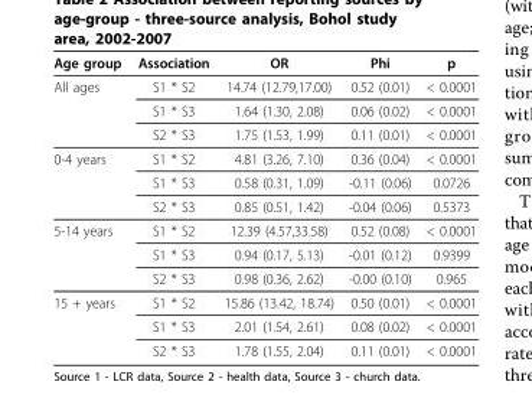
<table><thead><tr><td>Age group</td><td>Association</td><td>OR</td><td>Phi</td><td>p</td></tr></thead><tbody><tr><td rowspan="3">All ages</td><td>S1 * S2</td><td>14.74 (12.79,17.00)</td><td>0.52 (0.01)</td><td>&lt; 0.0001</td></tr><tr><td>S1 * S3</td><td>1.64 (1.30, 2.08)</td><td>0.06 (0.02)</td><td>&lt; 0.0001</td></tr><tr><td>S2 * S3</td><td>1.75 (1.53, 1.99)</td><td>0.11 (0.01)</td><td>&lt; 0.0001</td></tr><tr><td rowspan="3">0-4 years</td><td>S1 * S2</td><td>4.81 (3.26, 7.10)</td><td>0.36 (0.04)</td><td>&lt; 0.0001</td></tr><tr><td>S1 * S3</td><td>0.58 (0.31, 1.09)</td><td>-0.11 (0.06)</td><td>0.0726</td></tr><tr><td>S2 * S3</td><td>0.85 (0.51, 1.42)</td><td>-0.04 (0.06)</td><td>0.5373</td></tr><tr><td rowspan="3">5-14 years</td><td>S1 * S2</td><td>12.39 (4.57,33.58)</td><td>0.52 (0.08)</td><td>&lt; 0.0001</td></tr><tr><td>S1 * S3</td><td>0.94 (0.17, 5.13)</td><td>-0.01 (0.12)</td><td>0.9399</td></tr><tr><td>S2 * S3</td><td>0.98 (0.36, 2.62)</td><td>-0.00 (0.10)</td><td>0.965</td></tr><tr><td rowspan="3">15 + years</td><td>S1 * S2</td><td>15.86 (13.42, 18.74)</td><td>0.50 (0.01)</td><td>&lt; 0.0001</td></tr><tr><td>S1 * S3</td><td>2.01 (1.54, 2.61)</td><td>0.08 (0.02)</td><td>&lt; 0.0001</td></tr><tr><td>S2 * S3</td><td>1.78 (1.55, 2.04)</td><td>0.11 (0.01)</td><td>&lt; 0.0001</td></tr></tbody></table>